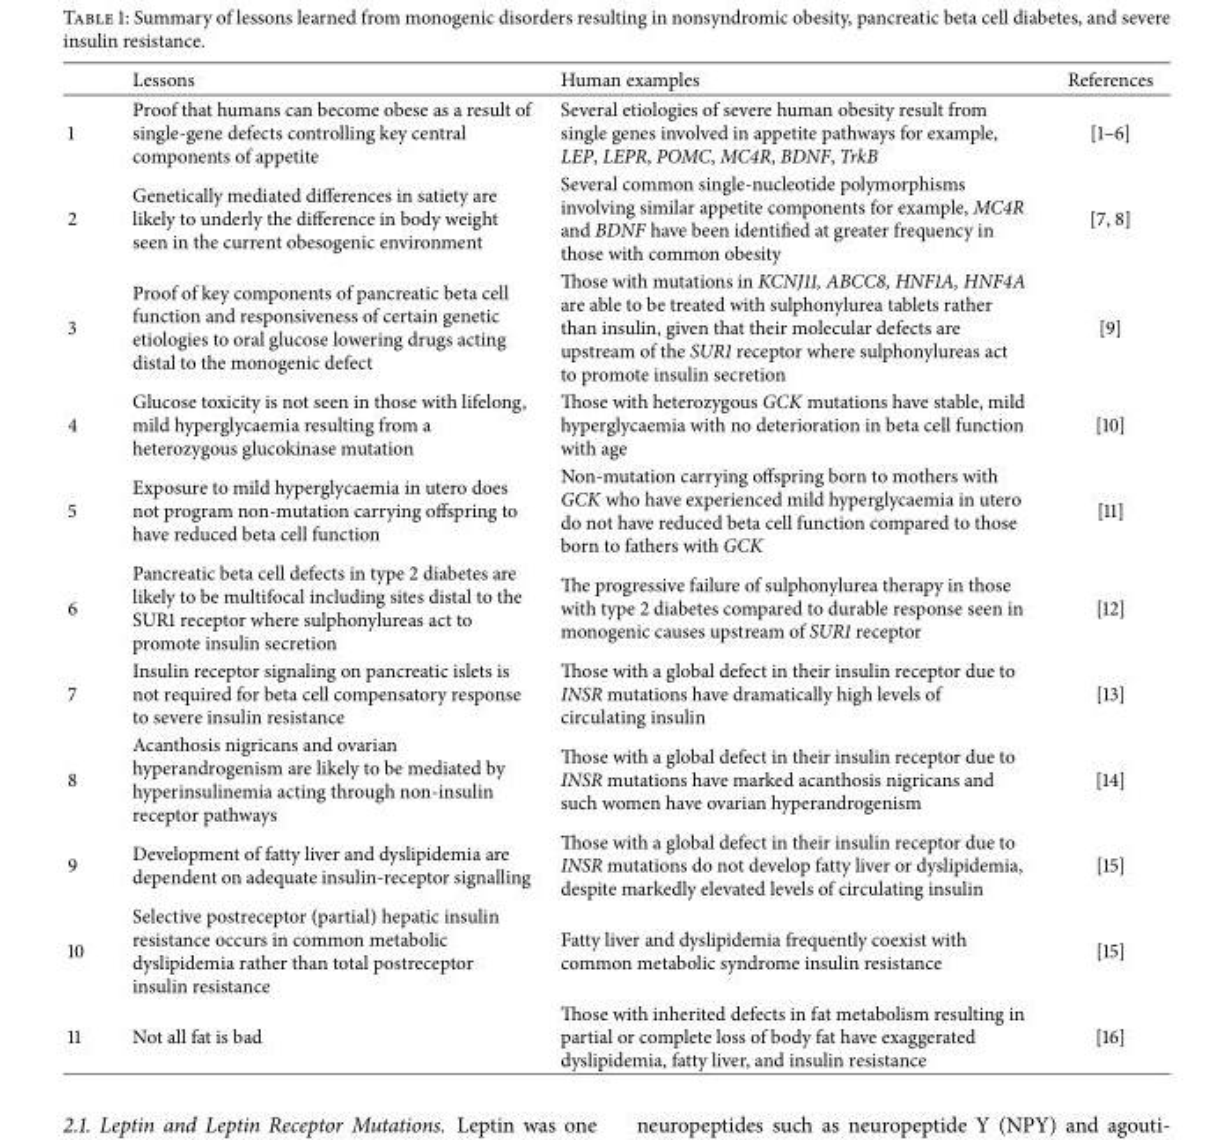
<table><thead><tr><td></td><td>Lessons</td><td>Human examples</td><td>References</td></tr></thead><tbody><tr><td>1</td><td>Proof that humans can become obese as a result of single-gene defects controlling key central components of appetite</td><td>Several etiologies of severe human obesity result from single genes involved in appetite pathways for example, LEP, LEPR, POMC, MC4R, BDNF, TrkB</td><td>[1–6]</td></tr><tr><td>2</td><td>Genetically mediated differences in satiety are likely to underly the difference in body weight seen in the current obesogenic environment</td><td>Several common single-nucleotide polymorphisms involving similar appetite components for example, MC4R and BDNF have been identified at greater frequency in those with common obesity</td><td>[7, 8]</td></tr><tr><td>3</td><td>Proof of key components of pancreatic beta cell function and responsiveness of certain genetic etiologies to oral glucose lowering drugs acting distal to the monogenic defect</td><td>Those with mutations in KCNJ11, ABCC8, HNF1A, HNF4A are able to be treated with sulphonylurea tablets rather than insulin, given that their molecular defects are upstream of the SUR1 receptor where sulphonylureas act to promote insulin secretion</td><td>[9]</td></tr><tr><td>4</td><td>Glucose toxicity is not seen in those with lifelong, mild hyperglycaemia resulting from a heterozygous glucokinase mutation</td><td>Those with heterozygous GCK mutations have stable, mild hyperglycaemia with no deterioration in beta cell function with age</td><td>[10]</td></tr><tr><td>5</td><td>Exposure to mild hyperglycaemia in utero does not program non-mutation carrying offspring to have reduced beta cell function</td><td>Non-mutation carrying offspring born to mothers with GCK who have experienced mild hyperglycaemia in utero do not have reduced beta cell function compared to those born to fathers with GCK</td><td>[11]</td></tr><tr><td>6</td><td>Pancreatic beta cell defects in type 2 diabetes are likely to be multifocal including sites distal to the SUR1 receptor where sulphonylureas act to promote insulin secretion</td><td>The progressive failure of sulphonylurea therapy in those with type 2 diabetes compared to durable response seen in monogenic causes upstream of SUR1 receptor</td><td>[12]</td></tr><tr><td>7</td><td>Insulin receptor signaling on pancreatic islets is not required for beta cell compensatory response to severe insulin resistance</td><td>Those with a global defect in their insulin receptor due to INSR mutations have dramatically high levels of circulating insulin</td><td>[13]</td></tr><tr><td>8</td><td>Acanthosis nigricans and ovarian hyperandrogenism are likely to be mediated by hyperinsulinemia acting through non-insulin receptor pathways</td><td>Those with a global defect in their insulin receptor due to INSR mutations have marked acanthosis nigricans and such women have ovarian hyperandrogenism</td><td>[14]</td></tr><tr><td>9</td><td>Development of fatty liver and dyslipidemia are dependent on adequate insulin-receptor signalling</td><td>Those with a global defect in their insulin receptor due to INSR mutations do not develop fatty liver or dyslipidemia, despite markedly elevated levels of circulating insulin</td><td>[15]</td></tr><tr><td>10</td><td>Selective postreceptor (partial) hepatic insulin resistance occurs in common metabolic dyslipidemia rather than total postreceptor insulin resistance</td><td>Fatty liver and dyslipidemia frequently coexist with common metabolic syndrome insulin resistance</td><td>[15]</td></tr><tr><td>11</td><td>Not all fat is bad</td><td>Those with inherited defects in fat metabolism resulting in partial or complete loss of body fat have exaggerated dyslipidemia, fatty liver, and insulin resistance</td><td>[16]</td></tr></tbody></table>